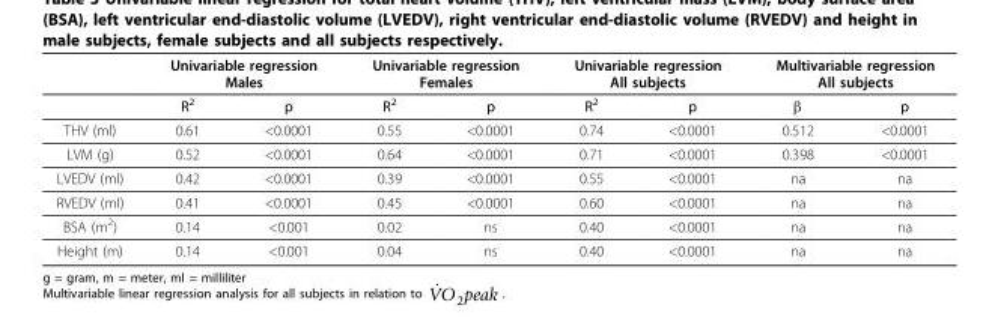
<table><thead><tr><td rowspan="2"></td><td colspan="2">Univariable regression Males</td><td colspan="2">Univariable regression Females</td><td colspan="2">Univariable regression All subjects</td><td colspan="2">Multivariable regression All subjects</td></tr><tr><td>R<sup>2</sup></td><td>p</td><td>R<sup>2</sup></td><td>p</td><td>R<sup>2</sup></td><td>p</td><td>β</td><td>p</td></tr></thead><tbody><tr><td>THV (ml)</td><td>0.61</td><td>&lt;0.0001</td><td>0.55</td><td>&lt;0.0001</td><td>0.74</td><td>&lt;0.0001</td><td>0.512</td><td>&lt;0.0001</td></tr><tr><td>LVM (g)</td><td>0.52</td><td>&lt;0.0001</td><td>0.64</td><td>&lt;0.0001</td><td>0.71</td><td>&lt;0.0001</td><td>0.398</td><td>&lt;0.0001</td></tr><tr><td>LVEDV (ml)</td><td>0.42</td><td>&lt;0.0001</td><td>0.39</td><td>&lt;0.0001</td><td>0.55</td><td>&lt;0.0001</td><td>na</td><td>na</td></tr><tr><td>RVEDV (ml)</td><td>0.41</td><td>&lt;0.0001</td><td>0.45</td><td>&lt;0.0001</td><td>0.60</td><td>&lt;0.0001</td><td>na</td><td>na</td></tr><tr><td>BSA (m<sup>2</sup>)</td><td>0.14</td><td>&lt;0.001</td><td>0.02</td><td>ns</td><td>0.40</td><td>&lt;0.0001</td><td>na</td><td>na</td></tr><tr><td>Height (m)</td><td>0.14</td><td>&lt;0.001</td><td>0.04</td><td>ns</td><td>0.40</td><td>&lt;0.0001</td><td>na</td><td>na</td></tr></tbody></table>